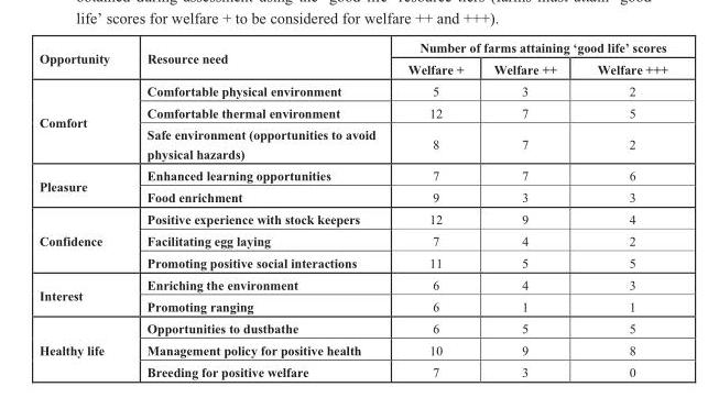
<table><thead><tr><td rowspan="2">Opportunity</td><td rowspan="2">Resource need</td><td colspan="3">Number of farms attaining ‘good life’ scores</td></tr><tr><td>Welfare +</td><td>Welfare ++</td><td>Welfare +++</td></tr></thead><tbody><tr><td rowspan="3">Comfort</td><td>Comfortable physical environment</td><td>5</td><td>3</td><td>2</td></tr><tr><td>Comfortable thermal environment</td><td>12</td><td>7</td><td>5</td></tr><tr><td>Safe environment (opportunities to avoid physical hazards)</td><td>8</td><td>7</td><td>2</td></tr><tr><td rowspan="2">Pleasure</td><td>Enhanced learning opportunities</td><td>7</td><td>7</td><td>6</td></tr><tr><td>Food enrichment</td><td>9</td><td>3</td><td>3</td></tr><tr><td rowspan="3">Confidence</td><td>Positive experience with stock keepers</td><td>12</td><td>9</td><td>4</td></tr><tr><td>Facilitating egg laying</td><td>7</td><td>4</td><td>2</td></tr><tr><td>Promoting positive social interactions</td><td>11</td><td>5</td><td>5</td></tr><tr><td rowspan="2">Interest</td><td>Enriching the environment</td><td>6</td><td>4</td><td>3</td></tr><tr><td>Promoting ranging</td><td>6</td><td>1</td><td>1</td></tr><tr><td rowspan="3">Healthy life</td><td>Opportunities to dustbathe</td><td>6</td><td>5</td><td>5</td></tr><tr><td>Management policy for positive health</td><td>10</td><td>9</td><td>8</td></tr><tr><td>Breeding for positive welfare</td><td>7</td><td>3</td><td>0</td></tr></tbody></table>